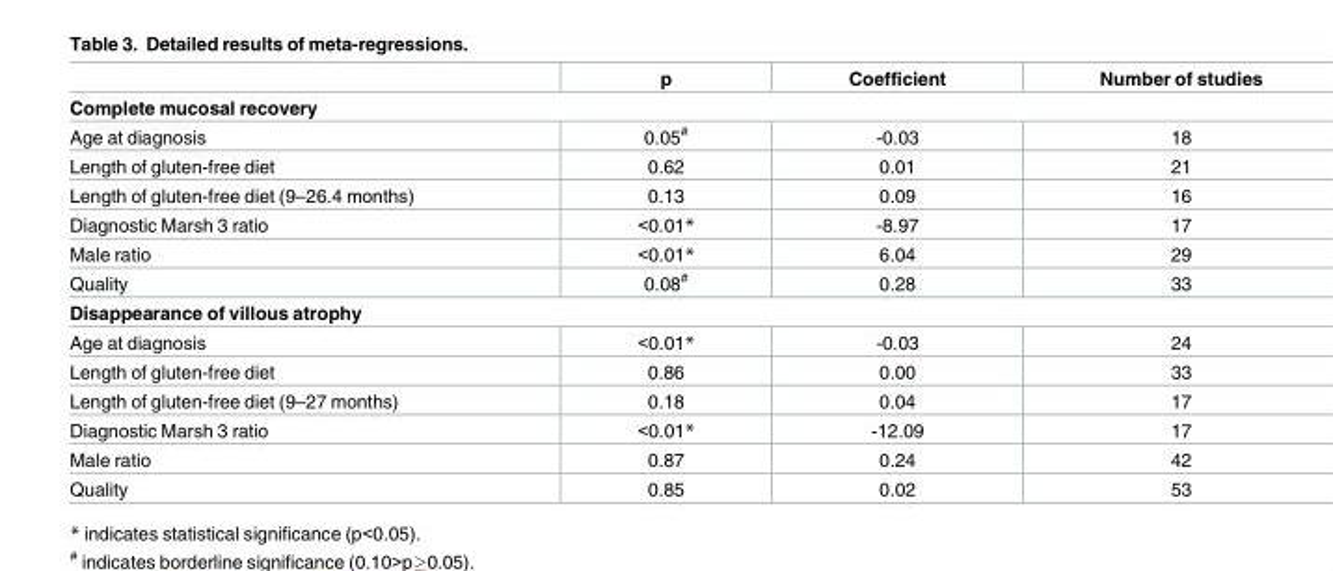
<table><thead><tr><td></td><td>p</td><td>Coefficient</td><td>Number of studies</td></tr></thead><tbody><tr><td colspan="4">Complete mucosal recovery</td></tr><tr><td>Age at diagnosis</td><td>0.05<sup>#</sup></td><td>-0.03</td><td>18</td></tr><tr><td>Length of gluten-free diet</td><td>0.62</td><td>0.01</td><td>21</td></tr><tr><td>Length of gluten-free diet (9–26.4 months)</td><td>0.13</td><td>0.09</td><td>16</td></tr><tr><td>Diagnostic Marsh 3 ratio</td><td>&lt;0.01*</td><td>-8.97</td><td>17</td></tr><tr><td>Male ratio</td><td>&lt;0.01*</td><td>6.04</td><td>29</td></tr><tr><td>Quality</td><td>0.08<sup>#</sup></td><td>0.28</td><td>33</td></tr><tr><td colspan="4">Disappearance of villous atrophy</td></tr><tr><td>Age at diagnosis</td><td>&lt;0.01*</td><td>-0.03</td><td>24</td></tr><tr><td>Length of gluten-free diet</td><td>0.86</td><td>0.00</td><td>33</td></tr><tr><td>Length of gluten-free diet (9–27 months)</td><td>0.18</td><td>0.04</td><td>17</td></tr><tr><td>Diagnostic Marsh 3 ratio</td><td>&lt;0.01*</td><td>-12.09</td><td>17</td></tr><tr><td>Male ratio</td><td>0.87</td><td>0.24</td><td>42</td></tr><tr><td>Quality</td><td>0.85</td><td>0.02</td><td>53</td></tr></tbody></table>